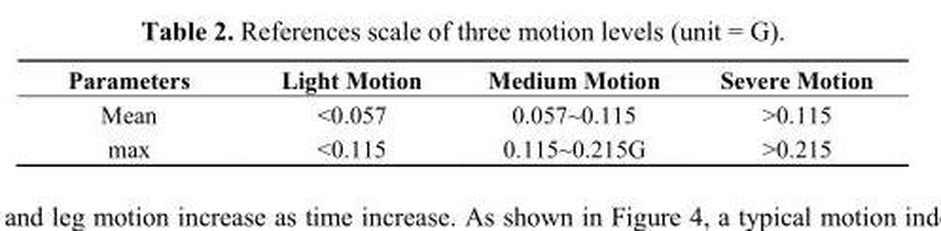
<table><thead><tr><td>Parameters</td><td>Light Motion</td><td>Medium Motion</td><td>Severe Motion</td></tr></thead><tbody><tr><td>Mean</td><td>&lt;0.057</td><td>0.057~0.115</td><td>&gt;0.115</td></tr><tr><td>max</td><td>&lt;0.115</td><td>0.115~0.215G</td><td>&gt;0.215</td></tr></tbody></table>